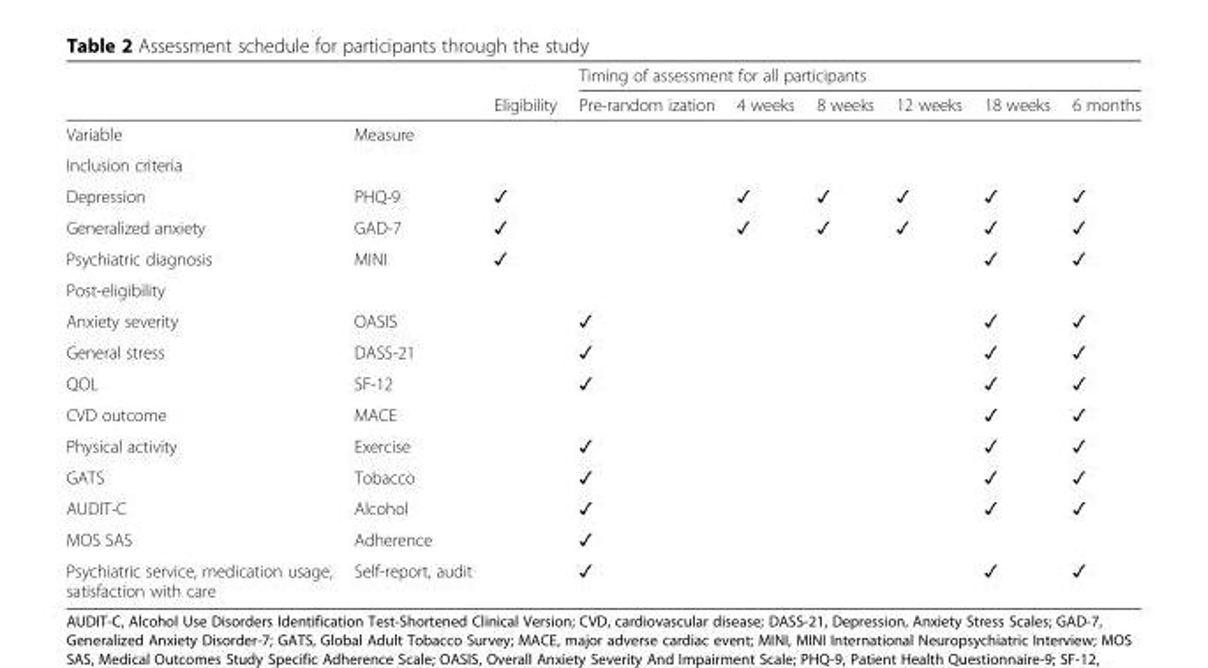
<table><thead><tr><td rowspan="2"></td><td rowspan="2"></td><td rowspan="2">Eligibility</td><td colspan="6">Timing of assessment for all participants</td></tr><tr><td>Pre-random ization</td><td>4 weeks</td><td>8 weeks</td><td>12 weeks</td><td>18 weeks</td><td>6 months</td></tr></thead><tbody><tr><td>Variable</td><td>Measure</td><td></td><td></td><td></td><td></td><td></td><td></td><td></td></tr><tr><td colspan="9">Inclusion criteria</td></tr><tr><td>Depression</td><td>PHQ-9</td><td>✓</td><td></td><td>✓</td><td>✓</td><td>✓</td><td>✓</td><td>✓</td></tr><tr><td>Generalized anxiety</td><td>GAD-7</td><td>✓</td><td></td><td>✓</td><td>✓</td><td>✓</td><td>✓</td><td>✓</td></tr><tr><td>Psychiatric diagnosis</td><td>MINI</td><td>✓</td><td></td><td></td><td></td><td></td><td>✓</td><td>✓</td></tr><tr><td colspan="9">Post-eligibility</td></tr><tr><td>Anxiety severity</td><td>OASIS</td><td></td><td>✓</td><td></td><td></td><td></td><td>✓</td><td>✓</td></tr><tr><td>General stress</td><td>DASS-21</td><td></td><td>✓</td><td></td><td></td><td></td><td>✓</td><td>✓</td></tr><tr><td>QOL</td><td>SF-12</td><td></td><td>✓</td><td></td><td></td><td></td><td>✓</td><td>✓</td></tr><tr><td>CVD outcome</td><td>MACE</td><td></td><td></td><td></td><td></td><td></td><td>✓</td><td>✓</td></tr><tr><td>Physical activity</td><td>Exercise</td><td></td><td>✓</td><td></td><td></td><td></td><td>✓</td><td>✓</td></tr><tr><td>GATS</td><td>Tobacco</td><td></td><td>✓</td><td></td><td></td><td></td><td>✓</td><td>✓</td></tr><tr><td>AUDIT-C</td><td>Alcohol</td><td></td><td>✓</td><td></td><td></td><td></td><td>✓</td><td>✓</td></tr><tr><td>MOS SAS</td><td>Adherence</td><td></td><td>✓</td><td></td><td></td><td></td><td></td><td></td></tr><tr><td>Psychiatric service, medication usage, satisfaction with care</td><td>Self-report, audit</td><td></td><td>✓</td><td></td><td></td><td></td><td>✓</td><td>✓</td></tr></tbody></table>